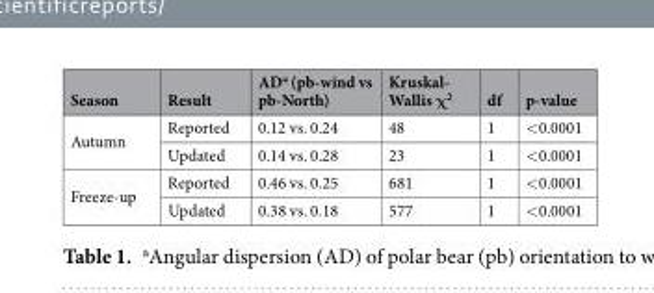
<table><thead><tr><td>Season</td><td>Result</td><td>AD<sup>a</sup> (pb-wind vs pb-North)</td><td>Kruskal- Wallis χ<sup>2</sup></td><td>df</td><td>p-value</td></tr></thead><tbody><tr><td rowspan="2">Autumn</td><td>Reported</td><td>0.12 vs. 0.24</td><td>48</td><td>1</td><td>&lt; 0.0001</td></tr><tr><td>Updated</td><td>0.14 vs. 0.28</td><td>23</td><td>1</td><td>&lt; 0.0001</td></tr><tr><td rowspan="2">Freeze-up</td><td>Reported</td><td>0.46 vs. 0.25</td><td>681</td><td>1</td><td>&lt; 0.0001</td></tr><tr><td>Updated</td><td>0.38 vs. 0.18</td><td>577</td><td>1</td><td>&lt; 0.0001</td></tr></tbody></table>